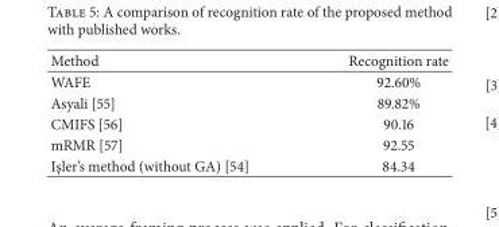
<table><thead><tr><td>Method</td><td>Recognition rate</td></tr></thead><tbody><tr><td>WAFE</td><td>92.60%</td></tr><tr><td>Asyali [55]</td><td>89.82%</td></tr><tr><td>CMIFS [56]</td><td>90.16</td></tr><tr><td>mRMR [57]</td><td>92.55</td></tr><tr><td>Is¸ler’s method (without GA) [54]</td><td>84.34</td></tr></tbody></table>